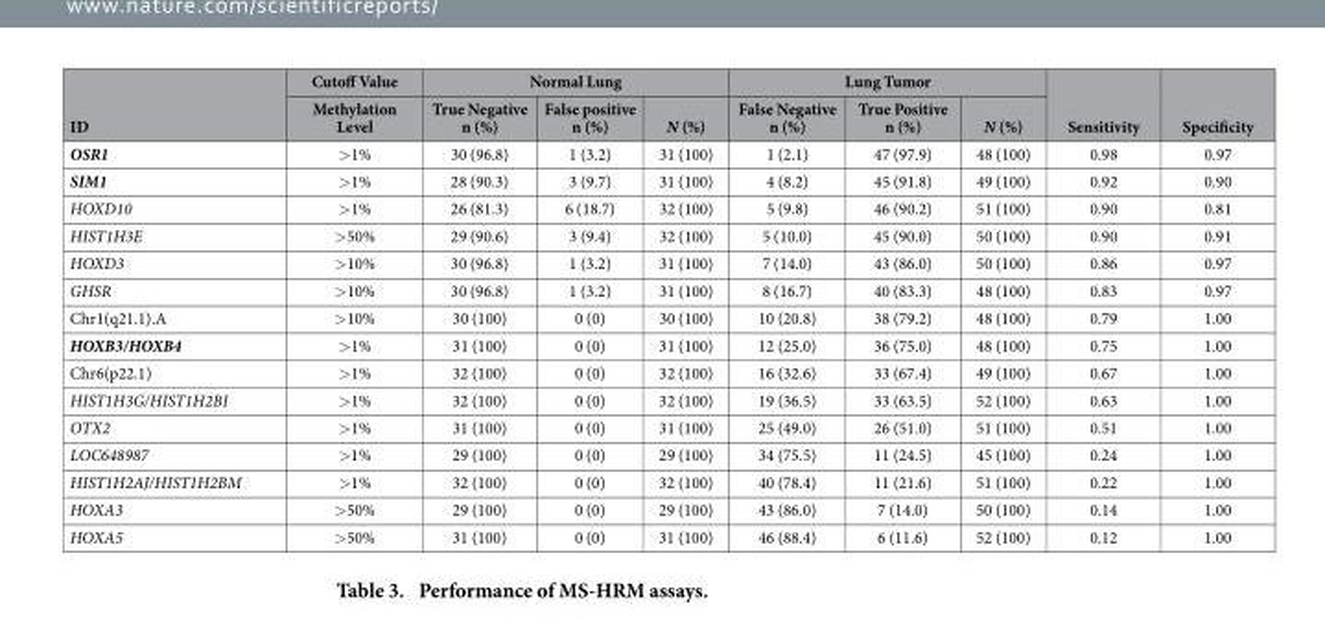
<table><thead><tr><td rowspan="2">ID</td><td rowspan="2">Cutoff Value Methylation Level</td><td colspan="3">Normal Lung</td><td colspan="3">Lung Tumor</td><td rowspan="2">Sensitivity</td><td rowspan="2">Specificity</td></tr><tr><td>True Negative n (%)</td><td>False positive n (%)</td><td>N (%)</td><td>False Negative n (%)</td><td>True Positive n (%)</td><td>N (%)</td></tr></thead><tbody><tr><td>OSR1</td><td>&gt; 1%</td><td>30 (96.8)</td><td>1 (3.2)</td><td>31 (100)</td><td>1 (2.1)</td><td>47 (97.9)</td><td>48 (100)</td><td>0.98</td><td>0.97</td></tr><tr><td>SIM1</td><td>&gt; 1%</td><td>28 (90.3)</td><td>3 (9.7)</td><td>31 (100)</td><td>4 (8.2)</td><td>45 (91.8)</td><td>49 (100)</td><td>0.92</td><td>0.90</td></tr><tr><td>HOXD10</td><td>&gt; 1%</td><td>26 (81.3)</td><td>6 (18.7)</td><td>32 (100)</td><td>5 (9.8)</td><td>46 (90.2)</td><td>51 (100)</td><td>0.90</td><td>0.81</td></tr><tr><td>HIST1H3E</td><td>&gt; 50%</td><td>29 (90.6)</td><td>3 (9.4)</td><td>32 (100)</td><td>5 (10.0)</td><td>45 (90.0)</td><td>50 (100)</td><td>0.90</td><td>0.91</td></tr><tr><td>HOXD3</td><td>&gt; 10%</td><td>30 (96.8)</td><td>1 (3.2)</td><td>31 (100)</td><td>7 (14.0)</td><td>43 (86.0)</td><td>50 (100)</td><td>0.86</td><td>0.97</td></tr><tr><td>GHSR</td><td>&gt; 10%</td><td>30 (96.8)</td><td>1 (3.2)</td><td>31 (100)</td><td>8 (16.7)</td><td>40 (83.3)</td><td>48 (100)</td><td>0.83</td><td>0.97</td></tr><tr><td>Chr1(q21.1).A</td><td>&gt; 10%</td><td>30 (100)</td><td>0 (0)</td><td>30 (100)</td><td>10 (20.8)</td><td>38 (79.2)</td><td>48 (100)</td><td>0.79</td><td>1.00</td></tr><tr><td>HOXB3/HOXB4</td><td>&gt; 1%</td><td>31 (100)</td><td>0 (0)</td><td>31 (100)</td><td>12 (25.0)</td><td>36 (75.0)</td><td>48 (100)</td><td>0.75</td><td>1.00</td></tr><tr><td>Chr6(p22.1)</td><td>&gt; 1%</td><td>32 (100)</td><td>0 (0)</td><td>32 (100)</td><td>16 (32.6)</td><td>33 (67.4)</td><td>49 (100)</td><td>0.67</td><td>1.00</td></tr><tr><td>HIST1H3G/HIST1H2BI</td><td>&gt; 1%</td><td>32 (100)</td><td>0 (0)</td><td>32 (100)</td><td>19 (36.5)</td><td>33 (63.5)</td><td>52 (100)</td><td>0.63</td><td>1.00</td></tr><tr><td>OTX2</td><td>&gt; 1%</td><td>31 (100)</td><td>0 (0)</td><td>31 (100)</td><td>25 (49.0)</td><td>26 (51.0)</td><td>51 (100)</td><td>0.51</td><td>1.00</td></tr><tr><td>LOC648987</td><td>&gt; 1%</td><td>29 (100)</td><td>0 (0)</td><td>29 (100)</td><td>34 (75.5)</td><td>11 (24.5)</td><td>45 (100)</td><td>0.24</td><td>1.00</td></tr><tr><td>HIST1H2AJ/HIST1H2BM</td><td>&gt; 1%</td><td>32 (100)</td><td>0 (0)</td><td>32 (100)</td><td>40 (78.4)</td><td>11 (21.6)</td><td>51 (100)</td><td>0.22</td><td>1.00</td></tr><tr><td>HOXA3</td><td>&gt; 50%</td><td>29 (100)</td><td>0 (0)</td><td>29 (100)</td><td>43 (86.0)</td><td>7 (14.0)</td><td>50 (100)</td><td>0.14</td><td>1.00</td></tr><tr><td>HOXA5</td><td>&gt; 50%</td><td>31 (100)</td><td>0 (0)</td><td>31 (100)</td><td>46 (88.4)</td><td>6 (11.6)</td><td>52 (100)</td><td>0.12</td><td>1.00</td></tr></tbody></table>